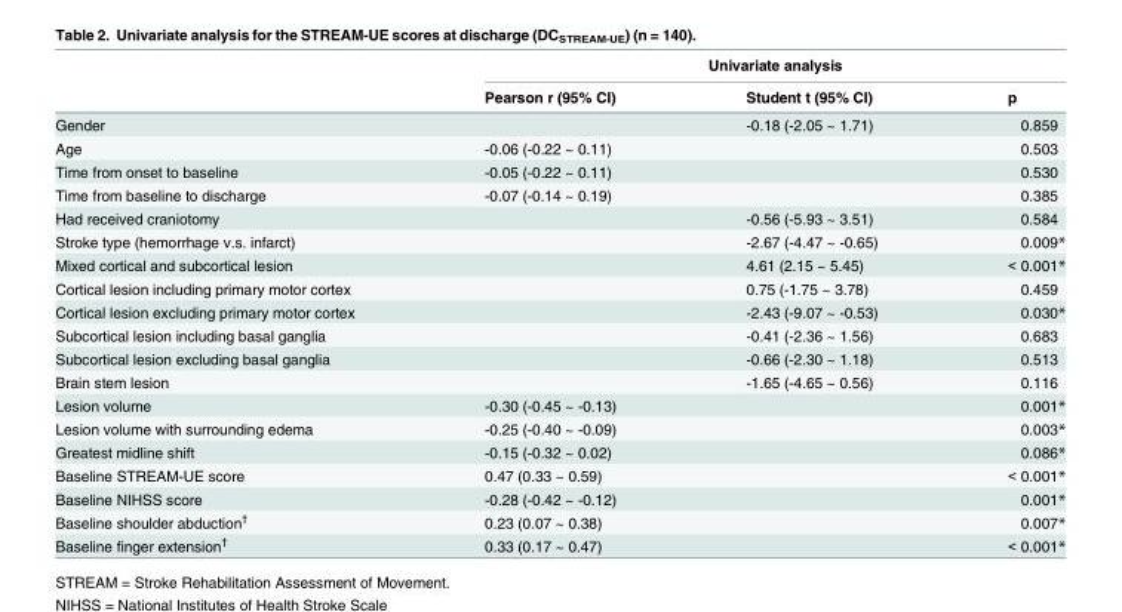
<table><thead><tr><td rowspan="2"></td><td colspan="3">Univariate analysis</td></tr><tr><td>Pearson r (95% CI)</td><td>Student t (95% CI)</td><td>p</td></tr></thead><tbody><tr><td>Gender</td><td></td><td>-0.18 (-2.05 ~ 1.71)</td><td>0.859</td></tr><tr><td>Age</td><td>-0.06 (-0.22 ~ 0.11)</td><td></td><td>0.503</td></tr><tr><td>Time from onset to baseline</td><td>-0.05 (-0.22 ~ 0.11)</td><td></td><td>0.530</td></tr><tr><td>Time from baseline to discharge</td><td>-0.07 (-0.14 ~ 0.19)</td><td></td><td>0.385</td></tr><tr><td>Had received craniotomy</td><td></td><td>-0.56 (-5.93 ~ 3.51)</td><td>0.584</td></tr><tr><td>Stroke type (hemorrhage v.s. infarct)</td><td></td><td>-2.67 (-4.47 ~ -0.65)</td><td>0.009*</td></tr><tr><td>Mixed cortical and subcortical lesion</td><td></td><td>4.61 (2.15 ~ 5.45)</td><td>&lt; 0.001*</td></tr><tr><td>Cortical lesion including primary motor cortex</td><td></td><td>0.75 (-1.75 ~ 3.78)</td><td>0.459</td></tr><tr><td>Cortical lesion excluding primary motor cortex</td><td></td><td>-2.43 (-9.07 ~ -0.53)</td><td>0.030*</td></tr><tr><td>Subcortical lesion including basal ganglia</td><td></td><td>-0.41 (-2.36 ~ 1.56)</td><td>0.683</td></tr><tr><td>Subcortical lesion excluding basal ganglia</td><td></td><td>-0.66 (-2.30 ~ 1.18)</td><td>0.513</td></tr><tr><td>Brain stem lesion</td><td></td><td>-1.65 (-4.65 ~ 0.56)</td><td>0.116</td></tr><tr><td>Lesion volume</td><td>-0.30 (-0.45 ~ -0.13)</td><td></td><td>0.001*</td></tr><tr><td>Lesion volume with surrounding edema</td><td>-0.25 (-0.40 ~ -0.09)</td><td></td><td>0.003*</td></tr><tr><td>Greatest midline shift</td><td>-0.15 (-0.32 ~ 0.02)</td><td></td><td>0.086*</td></tr><tr><td>Baseline STREAM-UE score</td><td>0.47 (0.33 ~ 0.59)</td><td></td><td>&lt; 0.001*</td></tr><tr><td>Baseline NIHSS score</td><td>-0.28 (-0.42 ~ -0.12)</td><td></td><td>0.001*</td></tr><tr><td>Baseline shoulder abduction<sup>†</sup></td><td>0.23 (0.07 ~ 0.38)</td><td></td><td>0.007*</td></tr><tr><td>Baseline finger extension<sup>†</sup></td><td>0.33 (0.17 ~ 0.47)</td><td></td><td>&lt; 0.001*</td></tr></tbody></table>